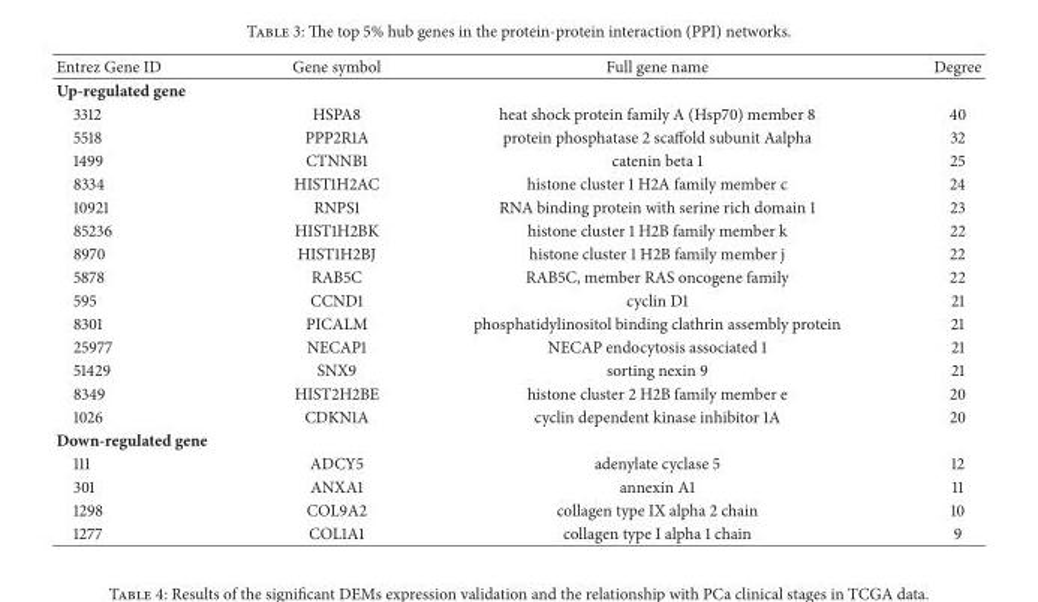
<table><thead><tr><td>Entrez Gene ID</td><td>Gene symbol</td><td>Full gene name</td><td>Degree</td></tr></thead><tbody><tr><td colspan="4">Up-regulated gene</td></tr><tr><td>3312</td><td>HSPA8</td><td>heat shock protein family A (Hsp70) member 8</td><td>40</td></tr><tr><td>5518</td><td>PPP2R1A</td><td>protein phosphatase 2 scaffold subunit Aalpha</td><td>32</td></tr><tr><td>1499</td><td>CTNNB1</td><td>catenin beta 1</td><td>25</td></tr><tr><td>8334</td><td>HIST1H2AC</td><td>histone cluster 1 H2A family member c</td><td>24</td></tr><tr><td>10921</td><td>RNPS1</td><td>RNA binding protein with serine rich domain 1</td><td>23</td></tr><tr><td>85236</td><td>HIST1H2BK</td><td>histone cluster 1 H2B family member k</td><td>22</td></tr><tr><td>8970</td><td>HIST1H2BJ</td><td>histone cluster 1 H2B family member j</td><td>22</td></tr><tr><td>5878</td><td>RAB5C</td><td>RAB5C, member RAS oncogene family</td><td>22</td></tr><tr><td>595</td><td>CCND1</td><td>cyclin D1</td><td>21</td></tr><tr><td>8301</td><td>PICALM</td><td>phosphatidylinositol binding clathrin assembly protein</td><td>21</td></tr><tr><td>25977</td><td>NECAP1</td><td>NECAP endocytosis associated 1</td><td>21</td></tr><tr><td>51429</td><td>SNX9</td><td>sorting nexin 9</td><td>21</td></tr><tr><td>8349</td><td>HIST2H2BE</td><td>histone cluster 2 H2B family member e</td><td>20</td></tr><tr><td>1026</td><td>CDKN1A</td><td>cyclin dependent kinase inhibitor 1A</td><td>20</td></tr><tr><td colspan="4">Down-regulated gene</td></tr><tr><td>111</td><td>ADCY5</td><td>adenylate cyclase 5</td><td>12</td></tr><tr><td>301</td><td>ANXA1</td><td>annexin A1</td><td>11</td></tr><tr><td>1298</td><td>COL9A2</td><td>collagen type IX alpha 2 chain</td><td>10</td></tr><tr><td>1277</td><td>COL1A1</td><td>collagen type I alpha 1 chain</td><td>9</td></tr></tbody></table>